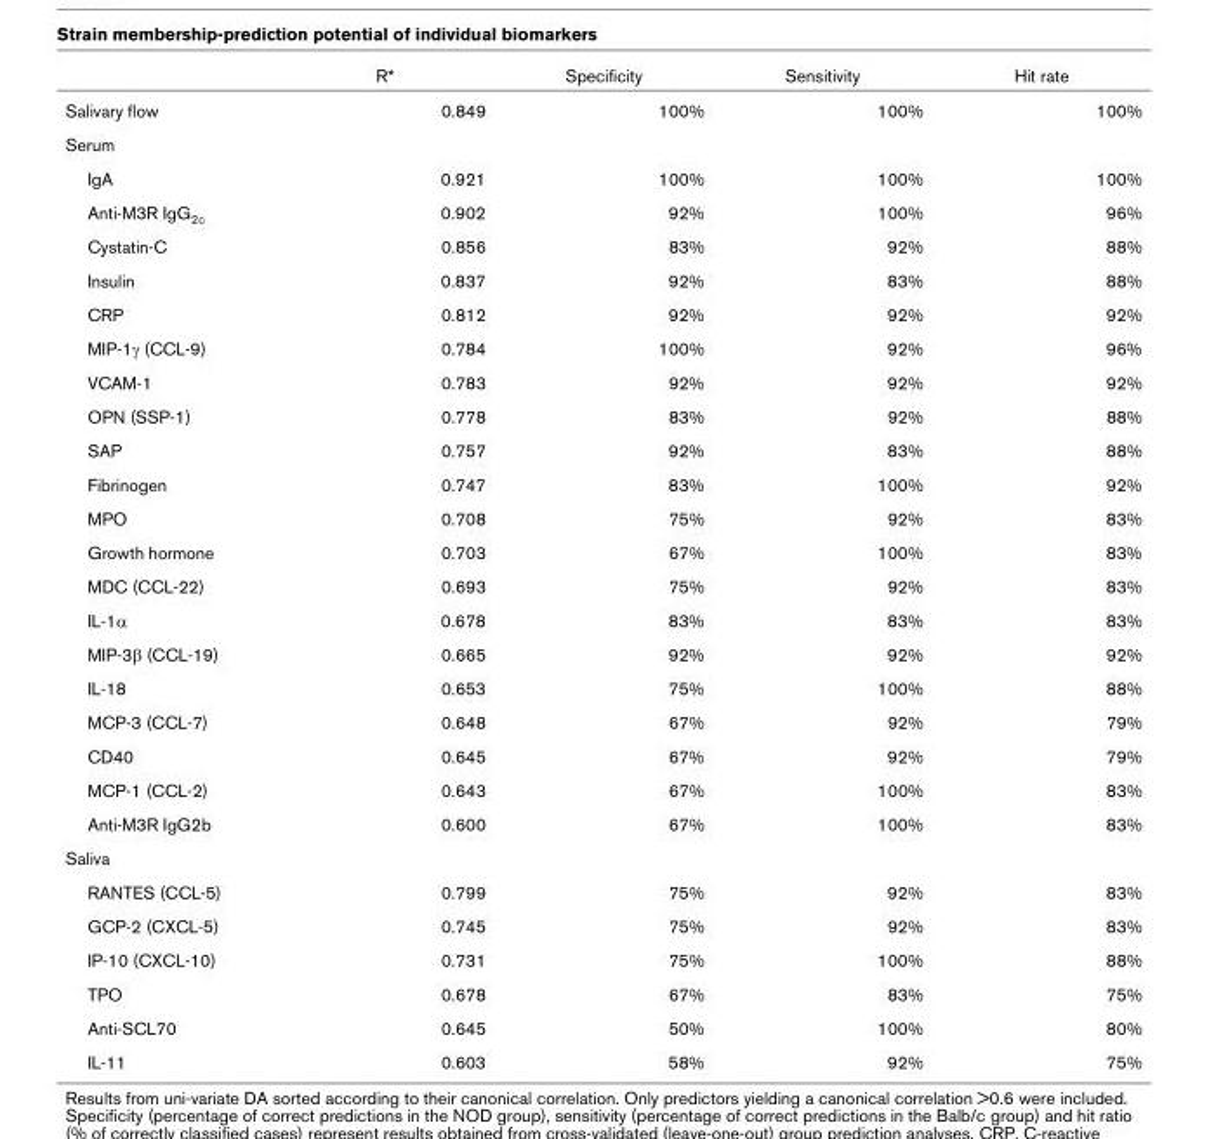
<table><thead><tr><td></td><td>R*</td><td>Specificity</td><td>Sensitivity</td><td>Hit rate</td></tr></thead><tbody><tr><td>Salivary flow</td><td>0.849</td><td>100%</td><td>100%</td><td>100%</td></tr><tr><td colspan="5">Serum</td></tr><tr><td>IgA</td><td>0.921</td><td>100%</td><td>100%</td><td>100%</td></tr><tr><td>Anti-M3R IgG<sub>2c</sub></td><td>0.902</td><td>92%</td><td>100%</td><td>96%</td></tr><tr><td>Cystatin-C</td><td>0.856</td><td>83%</td><td>92%</td><td>88%</td></tr><tr><td>Insulin</td><td>0.837</td><td>92%</td><td>83%</td><td>88%</td></tr><tr><td>CRP</td><td>0.812</td><td>92%</td><td>92%</td><td>92%</td></tr><tr><td>MIP-1γ (CCL-9)</td><td>0.784</td><td>100%</td><td>92%</td><td>96%</td></tr><tr><td>VCAM-1</td><td>0.783</td><td>92%</td><td>92%</td><td>92%</td></tr><tr><td>OPN (SSP-1)</td><td>0.778</td><td>83%</td><td>92%</td><td>88%</td></tr><tr><td>SAP</td><td>0.757</td><td>92%</td><td>83%</td><td>88%</td></tr><tr><td>Fibrinogen</td><td>0.747</td><td>83%</td><td>100%</td><td>92%</td></tr><tr><td>MPO</td><td>0.708</td><td>75%</td><td>92%</td><td>83%</td></tr><tr><td>Growth hormone</td><td>0.703</td><td>67%</td><td>100%</td><td>83%</td></tr><tr><td>MDC (CCL-22)</td><td>0.693</td><td>75%</td><td>92%</td><td>83%</td></tr><tr><td>IL-1α</td><td>0.678</td><td>83%</td><td>83%</td><td>83%</td></tr><tr><td>MIP-3β (CCL-19)</td><td>0.665</td><td>92%</td><td>92%</td><td>92%</td></tr><tr><td>IL-18</td><td>0.653</td><td>75%</td><td>100%</td><td>88%</td></tr><tr><td>MCP-3 (CCL-7)</td><td>0.648</td><td>67%</td><td>92%</td><td>79%</td></tr><tr><td>CD40</td><td>0.645</td><td>67%</td><td>92%</td><td>79%</td></tr><tr><td>MCP-1 (CCL-2)</td><td>0.643</td><td>67%</td><td>100%</td><td>83%</td></tr><tr><td>Anti-M3R IgG2b</td><td>0.600</td><td>67%</td><td>100%</td><td>83%</td></tr><tr><td colspan="5">Saliva</td></tr><tr><td>RANTES (CCL-5)</td><td>0.799</td><td>75%</td><td>92%</td><td>83%</td></tr><tr><td>GCP-2 (CXCL-5)</td><td>0.745</td><td>75%</td><td>92%</td><td>83%</td></tr><tr><td>IP-10 (CXCL-10)</td><td>0.731</td><td>75%</td><td>100%</td><td>88%</td></tr><tr><td>TPO</td><td>0.678</td><td>67%</td><td>83%</td><td>75%</td></tr><tr><td>Anti-SCL70</td><td>0.645</td><td>50%</td><td>100%</td><td>80%</td></tr><tr><td>IL-11</td><td>0.603</td><td>58%</td><td>92%</td><td>75%</td></tr></tbody></table>